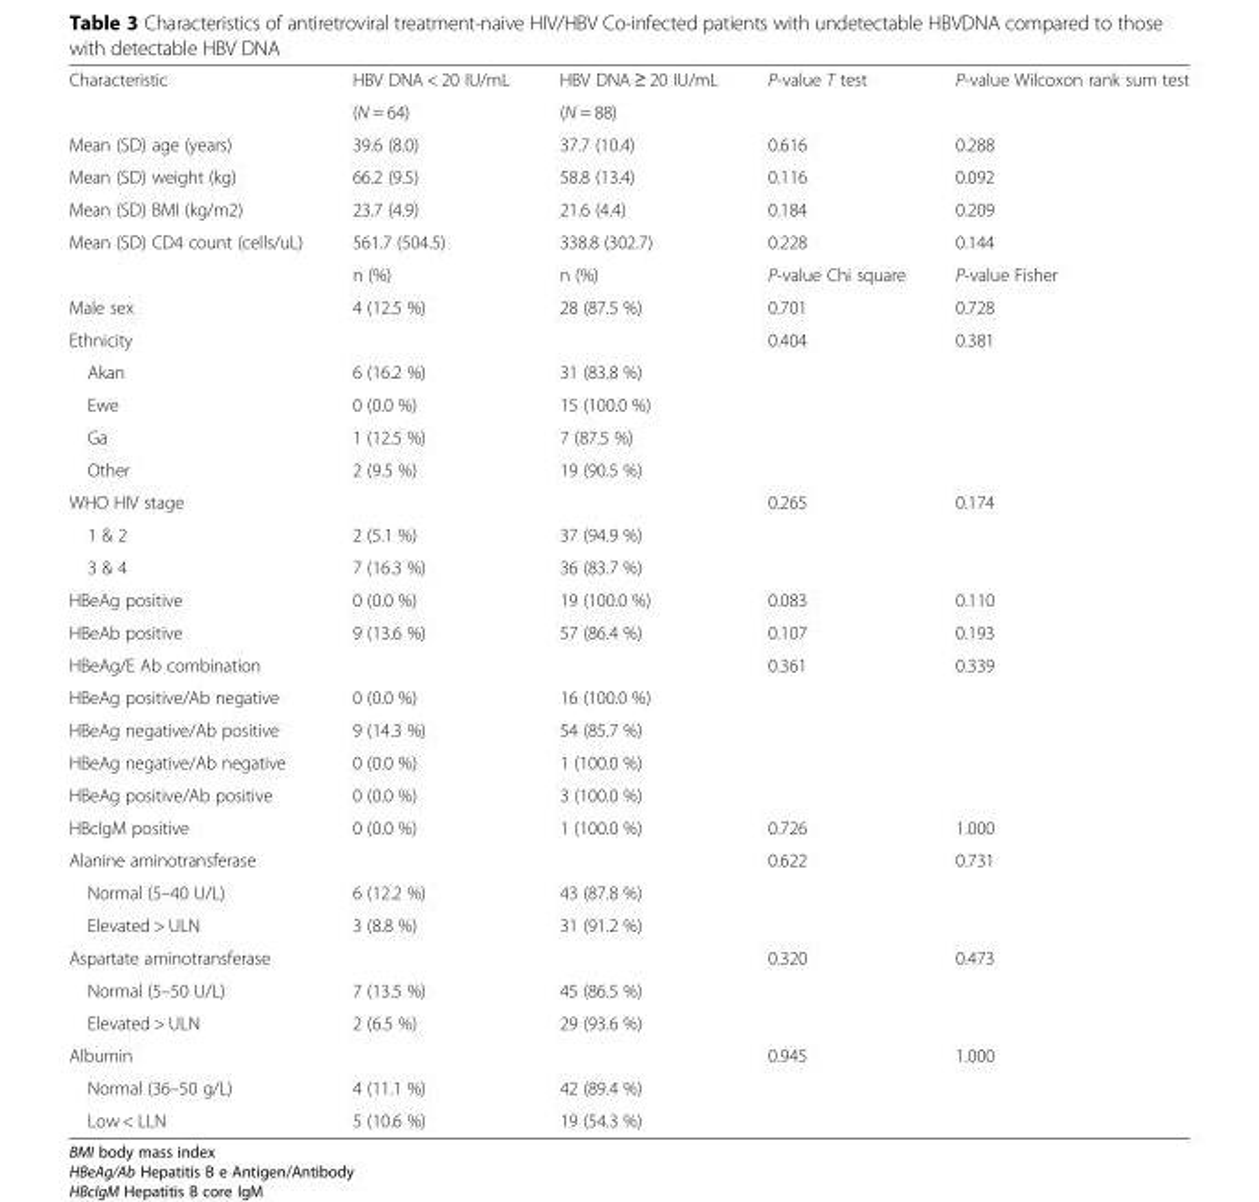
<table><tbody><tr><td rowspan="2">Characteristic</td><td>HBV DNA &lt; 20 IU/mL</td><td>HBV DNA ≥ 20 IU/mL</td><td rowspan="2">P-value T test</td><td rowspan="2">P-value Wilcoxon rank sum test</td></tr><tr><td>(N = 64)</td><td>(N = 88)</td></tr><tr><td>Mean (SD) age (years)</td><td>39.6 (8.0)</td><td>37.7 (10.4)</td><td>0.616</td><td>0.288</td></tr><tr><td>Mean (SD) weight (kg)</td><td>66.2 (9.5)</td><td>58.8 (13.4)</td><td>0.116</td><td>0.092</td></tr><tr><td>Mean (SD) BMI (kg/m2)</td><td>23.7 (4.9)</td><td>21.6 (4.4)</td><td>0.184</td><td>0.209</td></tr><tr><td rowspan="2">Mean (SD) CD4 count (cells/uL)</td><td>561.7 (504.5)</td><td>338.8 (302.7)</td><td>0.228</td><td>0.144</td></tr><tr><td>n (%)</td><td>n (%)</td><td>P-value Chi square</td><td>P-value Fisher</td></tr><tr><td>Male sex</td><td>4 (12.5 %)</td><td>28 (87.5 %)</td><td>0.701</td><td>0.728</td></tr><tr><td>Ethnicity</td><td></td><td></td><td>0.404</td><td>0.381</td></tr><tr><td>Akan</td><td>6 (16.2 %)</td><td>31 (83.8 %)</td><td></td><td></td></tr><tr><td>Ewe</td><td>0 (0.0 %)</td><td>15 (100.0 %)</td><td></td><td></td></tr><tr><td>Ga</td><td>1 (12.5 %)</td><td>7 (87.5 %)</td><td></td><td></td></tr><tr><td>Other</td><td>2 (9.5 %)</td><td>19 (90.5 %)</td><td></td><td></td></tr><tr><td>WHO HIV stage</td><td></td><td></td><td>0.265</td><td>0.174</td></tr><tr><td>1 &amp; 2</td><td>2 (5.1 %)</td><td>37 (94.9 %)</td><td></td><td></td></tr><tr><td>3 &amp; 4</td><td>7 (16.3 %)</td><td>36 (83.7 %)</td><td></td><td></td></tr><tr><td>HBeAg positive</td><td>0 (0.0 %)</td><td>19 (100.0 %)</td><td>0.083</td><td>0.110</td></tr><tr><td>HBeAb positive</td><td>9 (13.6 %)</td><td>57 (86.4 %)</td><td>0.107</td><td>0.193</td></tr><tr><td>HBeAg/E Ab combination</td><td></td><td></td><td>0.361</td><td>0.339</td></tr><tr><td>HBeAg positive/Ab negative</td><td>0 (0.0 %)</td><td>16 (100.0 %)</td><td></td><td></td></tr><tr><td>HBeAg negative/Ab positive</td><td>9 (14.3 %)</td><td>54 (85.7 %)</td><td></td><td></td></tr><tr><td>HBeAg negative/Ab negative</td><td>0 (0.0 %)</td><td>1 (100.0 %)</td><td></td><td></td></tr><tr><td>HBeAg positive/Ab positive</td><td>0 (0.0 %)</td><td>3 (100.0 %)</td><td></td><td></td></tr><tr><td>HBcIgM positive</td><td>0 (0.0 %)</td><td>1 (100.0 %)</td><td>0.726</td><td>1.000</td></tr><tr><td>Alanine aminotransferase</td><td></td><td></td><td>0.622</td><td>0.731</td></tr><tr><td>Normal (5–40 U/L)</td><td>6 (12.2 %)</td><td>43 (87.8 %)</td><td></td><td></td></tr><tr><td>Elevated &gt; ULN</td><td>3 (8.8 %)</td><td>31 (91.2 %)</td><td></td><td></td></tr><tr><td>Aspartate aminotransferase</td><td></td><td></td><td>0.320</td><td>0.473</td></tr><tr><td>Normal (5–50 U/L)</td><td>7 (13.5 %)</td><td>45 (86.5 %)</td><td></td><td></td></tr><tr><td>Elevated &gt; ULN</td><td>2 (6.5 %)</td><td>29 (93.6 %)</td><td></td><td></td></tr><tr><td>Albumin</td><td></td><td></td><td>0.945</td><td>1.000</td></tr><tr><td>Normal (36–50 g/L)</td><td>4 (11.1 %)</td><td>42 (89.4 %)</td><td></td><td></td></tr><tr><td>Low &lt; LLN</td><td>5 (10.6 %)</td><td>19 (54.3 %)</td><td></td><td></td></tr></tbody></table>